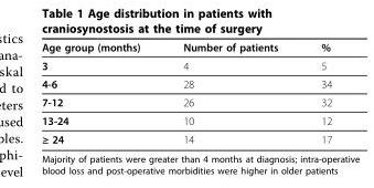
<table><thead><tr><td>Age group (months)</td><td>Number of patients</td><td>%</td></tr></thead><tbody><tr><td>3</td><td>4</td><td>5</td></tr><tr><td>4-6</td><td>28</td><td>34</td></tr><tr><td>7-12</td><td>26</td><td>32</td></tr><tr><td>13-24</td><td>10</td><td>12</td></tr><tr><td>≥ 24</td><td>14</td><td>17</td></tr></tbody></table>